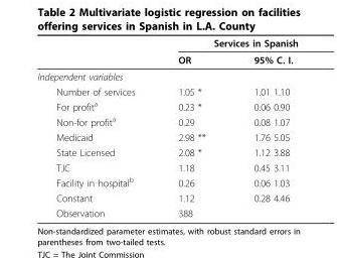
<table><thead><tr><td rowspan="2"></td><td colspan="2">Services in Spanish</td></tr><tr><td>OR</td><td>95% C. I.</td></tr></thead><tbody><tr><td colspan="3">Independent variables</td></tr><tr><td>Number of services</td><td>1.05 *</td><td>1.01 1.10</td></tr><tr><td>For profit<sup>a</sup></td><td>0.23 *</td><td>0.06 0.90</td></tr><tr><td>Non-for profit<sup>a</sup></td><td>0.29</td><td>0.08 1.07</td></tr><tr><td>Medicaid</td><td>2.98 **</td><td>1.76 5.05</td></tr><tr><td>State Licensed</td><td>2.08 *</td><td>1.12 3.88</td></tr><tr><td>TJC</td><td>1.18</td><td>0.45 3.11</td></tr><tr><td>Facility in hospital<sup>b</sup></td><td>0.26</td><td>0.06 1.03</td></tr><tr><td>Constant</td><td>1.12</td><td>0.28 4.46</td></tr><tr><td>Observation</td><td>388</td><td></td></tr></tbody></table>